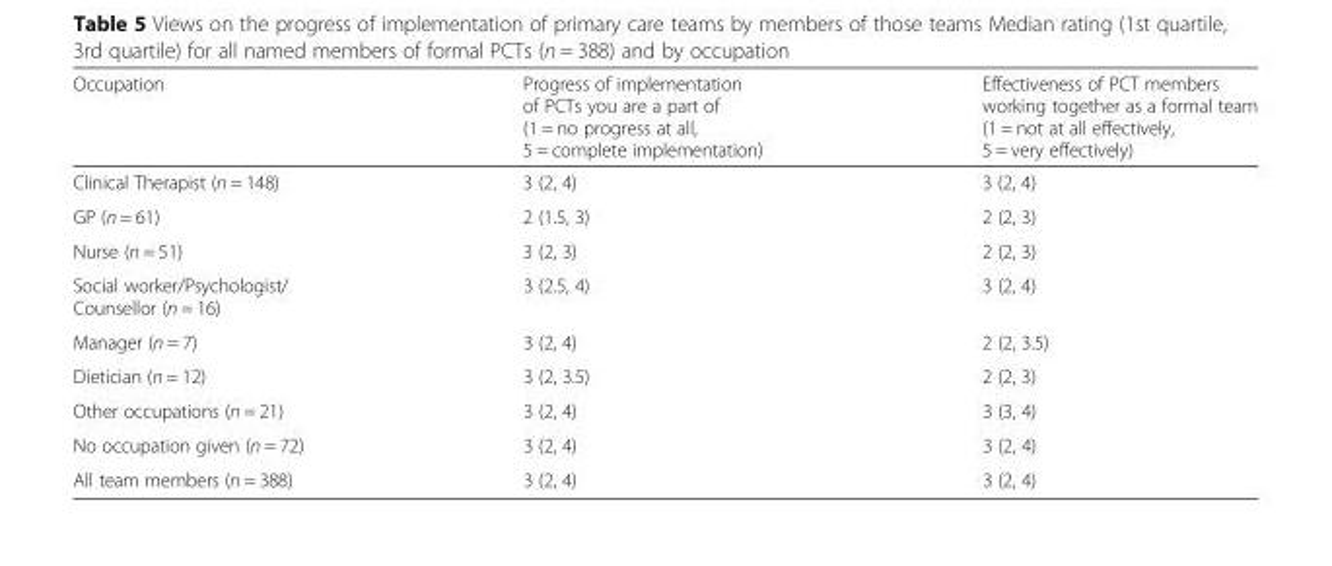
<table><thead><tr><td>Occupation</td><td>Progress of implementation of PCTs you are a part of (1 = no progress at all, 5 = complete implementation)</td><td>Effectiveness of PCT members working together as a formal team (1 = not at all effectively, 5 = very effectively)</td></tr></thead><tbody><tr><td>Clinical Therapist (n = 148)</td><td>3 (2, 4)</td><td>3 (2, 4)</td></tr><tr><td>GP (n = 61)</td><td>2 (1.5, 3)</td><td>2 (2, 3)</td></tr><tr><td>Nurse (n = 51)</td><td>3 (2, 3)</td><td>2 (2, 3)</td></tr><tr><td>Social worker/Psychologist/ Counsellor (n = 16)</td><td>3 (2.5, 4)</td><td>3 (2, 4)</td></tr><tr><td>Manager (n = 7)</td><td>3 (2, 4)</td><td>2 (2, 3.5)</td></tr><tr><td>Dietician (n = 12)</td><td>3 (2, 3.5)</td><td>2 (2, 3)</td></tr><tr><td>Other occupations (n = 21)</td><td>3 (2, 4)</td><td>3 (3, 4)</td></tr><tr><td>No occupation given (n = 72)</td><td>3 (2, 4)</td><td>3 (2, 4)</td></tr><tr><td>All team members (n = 388)</td><td>3 (2, 4)</td><td>3 (2, 4)</td></tr></tbody></table>